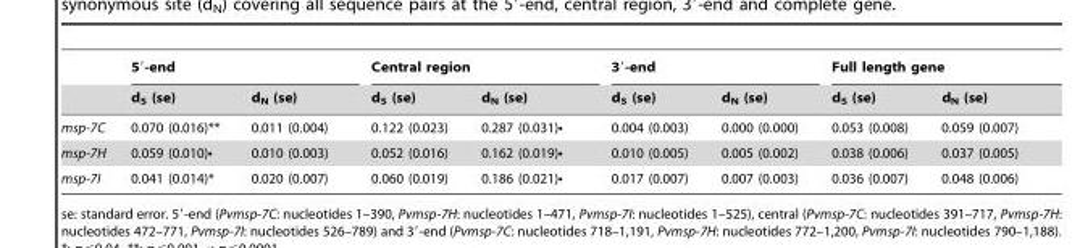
<table><thead><tr><td rowspan="2"></td><td colspan="2">5′-end</td><td colspan="2">Central region</td><td colspan="2">3′-end</td><td colspan="2">Full length gene</td></tr><tr><td>d<sub>S</sub> (se)</td><td>d<sub>N</sub> (se)</td><td>d<sub>S</sub> (se)</td><td>d<sub>N</sub> (se)</td><td>d<sub>S</sub> (se)</td><td>d<sub>N</sub> (se)</td><td>d<sub>S</sub> (se)</td><td>d<sub>N</sub> (se)</td></tr></thead><tbody><tr><td>msp-7C</td><td>0.070 (0.016)**</td><td>0.011 (0.004)</td><td>0.122 (0.023)</td><td>0.287 (0.031)•</td><td>0.004 (0.003)</td><td>0.000 (0.000)</td><td>0.053 (0.008)</td><td>0.059 (0.007)</td></tr><tr><td>msp-7H</td><td>0.059 (0.010)•</td><td>0.010 (0.003)</td><td>0.052 (0.016)</td><td>0.162 (0.019)•</td><td>0.010 (0.005)</td><td>0.005 (0.002)</td><td>0.038 (0.006)</td><td>0.037 (0.005)</td></tr><tr><td>msp-7I</td><td>0.041 (0.014)*</td><td>0.020 (0.007)</td><td>0.060 (0.019)</td><td>0.186 (0.021)•</td><td>0.017 (0.007)</td><td>0.007 (0.003)</td><td>0.036 (0.007)</td><td>0.048 (0.006)</td></tr></tbody></table>